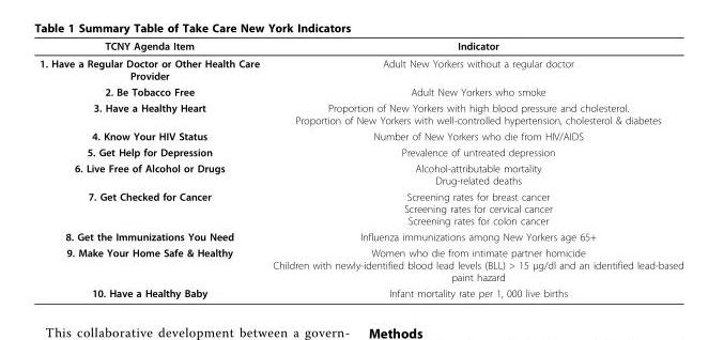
<table><thead><tr><td>TCNY Agenda Item</td><td>Indicator</td></tr></thead><tbody><tr><td>1. Have a Regular Doctor or Other Health Care Provider</td><td>Adult New Yorkers without a regular doctor</td></tr><tr><td>2. Be Tobacco Free</td><td>Adult New Yorkers who smoke</td></tr><tr><td>3. Have a Healthy Heart</td><td>Proportion of New Yorkers with high blood pressure and cholesterol. Proportion of New Yorkers with well-controlled hypertension, cholesterol &amp; diabetes</td></tr><tr><td>4. Know Your HIV Status</td><td>Number of New Yorkers who die from HIV/AIDS</td></tr><tr><td>5. Get Help for Depression</td><td>Prevalence of untreated depression</td></tr><tr><td>6. Live Free of Alcohol or Drugs</td><td>Alcohol-attributable mortality Drug-related deaths</td></tr><tr><td>7. Get Checked for Cancer</td><td>Screening rates for breast cancer Screening rates for cervical cancer Screening rates for colon cancer</td></tr><tr><td>8. Get the Immunizations You Need</td><td>Influenza immunizations among New Yorkers age 65+</td></tr><tr><td>9. Make Your Home Safe &amp; Healthy</td><td>Women who die from intimate partner homicide Children with newly-identified blood lead levels (BLL) &gt; 15 μg/dl and an identified lead-based paint hazard</td></tr><tr><td>10. Have a Healthy Baby</td><td>Infant mortality rate per 1, 000 live births</td></tr></tbody></table>